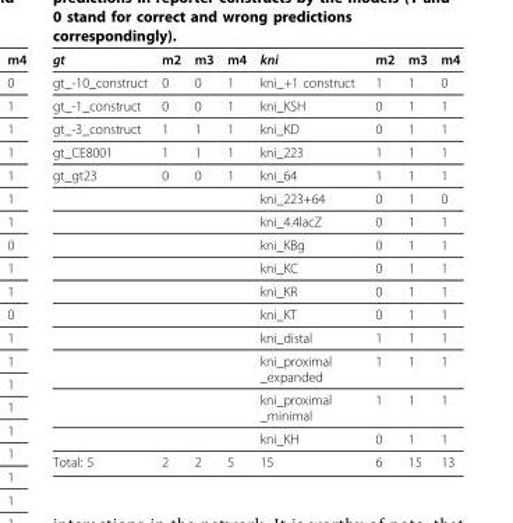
<table><thead><tr><td>gt</td><td>m2</td><td>m3</td><td>m4</td><td>kni</td><td>m2</td><td>m3</td><td>m4</td></tr></thead><tbody><tr><td>gt_-10_construct</td><td>0</td><td>0</td><td>1</td><td>kni_+1 construct</td><td>1</td><td>1</td><td>0</td></tr><tr><td>gt_-1_construct</td><td>0</td><td>0</td><td>1</td><td>kni_KSH</td><td>0</td><td>1</td><td>1</td></tr><tr><td>gt_-3_construct</td><td>1</td><td>1</td><td>1</td><td>kni_KD</td><td>0</td><td>1</td><td>1</td></tr><tr><td>gt_CE8001</td><td>1</td><td>1</td><td>1</td><td>kni_223</td><td>1</td><td>1</td><td>1</td></tr><tr><td rowspan="11">gt_gt23</td><td>0</td><td>0</td><td>1</td><td>kni_64</td><td>1</td><td>1</td><td>1</td></tr><tr><td></td><td></td><td></td><td>kni_223+64</td><td>0</td><td>1</td><td>0</td></tr><tr><td></td><td></td><td></td><td>kni_4.4lacZ</td><td>0</td><td>1</td><td>1</td></tr><tr><td></td><td></td><td></td><td>kni_KBg</td><td>0</td><td>1</td><td>1</td></tr><tr><td></td><td></td><td></td><td>kni_KC</td><td>0</td><td>1</td><td>1</td></tr><tr><td></td><td></td><td></td><td>kni_KR</td><td>0</td><td>1</td><td>1</td></tr><tr><td></td><td></td><td></td><td>kni_KT</td><td>0</td><td>1</td><td>1</td></tr><tr><td></td><td></td><td></td><td>kni_distal</td><td>1</td><td>1</td><td>1</td></tr><tr><td></td><td></td><td></td><td>kni_proximal _expanded</td><td>1</td><td>1</td><td>1</td></tr><tr><td></td><td></td><td></td><td>kni_proximal _minimal</td><td>1</td><td>1</td><td>1</td></tr><tr><td></td><td></td><td></td><td>kni_KH</td><td>0</td><td>1</td><td>1</td></tr><tr><td>Total: 5</td><td>2</td><td>2</td><td>5</td><td>15</td><td>6</td><td>15</td><td>13</td></tr></tbody></table>